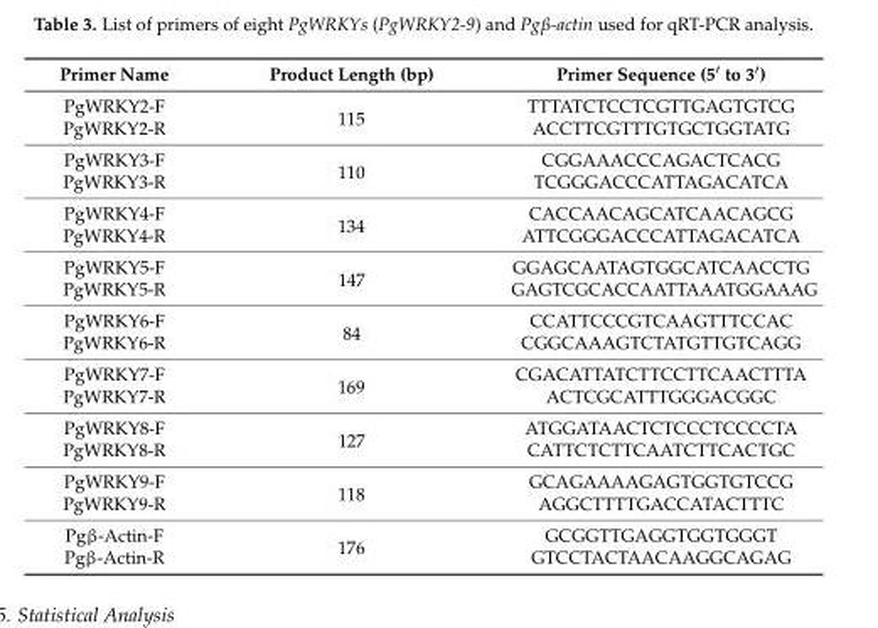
<table><thead><tr><td>Primer Name</td><td>Product Length (bp)</td><td>Primer Sequence (5′ to 3′)</td></tr></thead><tbody><tr><td>PgWRKY2-F</td><td rowspan="2">115</td><td>TTTATCTCCTCGTTGAGTGTCG</td></tr><tr><td>PgWRKY2-R</td><td>ACCTTCGTTTGTGCTGGTATG</td></tr><tr><td>PgWRKY3-F</td><td rowspan="2">110</td><td>CGGAAACCCAGACTCACG</td></tr><tr><td>PgWRKY3-R</td><td>TCGGGACCCATTAGACATCA</td></tr><tr><td>PgWRKY4-F</td><td rowspan="2">134</td><td>CACCAACAGCATCAACAGCG</td></tr><tr><td>PgWRKY4-R</td><td>ATTCGGGACCCATTAGACATCA</td></tr><tr><td>PgWRKY5-F</td><td rowspan="2">147</td><td>GGAGCAATAGTGGCATCAACCTG</td></tr><tr><td>PgWRKY5-R</td><td>GAGTCGCACCAATTAAATGGAAAG</td></tr><tr><td>PgWRKY6-F</td><td rowspan="2">84</td><td>CCATTCCCGTCAAGTTTCCAC</td></tr><tr><td>PgWRKY6-R</td><td>CGGCAAAGTCTATGTTGTCAGG</td></tr><tr><td>PgWRKY7-F</td><td rowspan="2">169</td><td>CGACATTATCTTCCTTCAACTTTA</td></tr><tr><td>PgWRKY7-R</td><td>ACTCGCATTTGGGACGGC</td></tr><tr><td>PgWRKY8-F</td><td rowspan="2">127</td><td>ATGGATAACTCTCCCTCCCCTA</td></tr><tr><td>PgWRKY8-R</td><td>CATTCTCTTCAATCTTCACTGC</td></tr><tr><td>PgWRKY9-F</td><td rowspan="2">118</td><td>GCAGAAAAGAGTGGTGTCCG</td></tr><tr><td>PgWRKY9-R</td><td>AGGCTTTTGACCATACTTTC</td></tr><tr><td>Pgβ-Actin-F</td><td rowspan="2">176</td><td>GCGGTTGAGGTGGTGGGT</td></tr><tr><td>Pgβ-Actin-R</td><td>GTCCTACTAACAAGGCAGAG</td></tr></tbody></table>